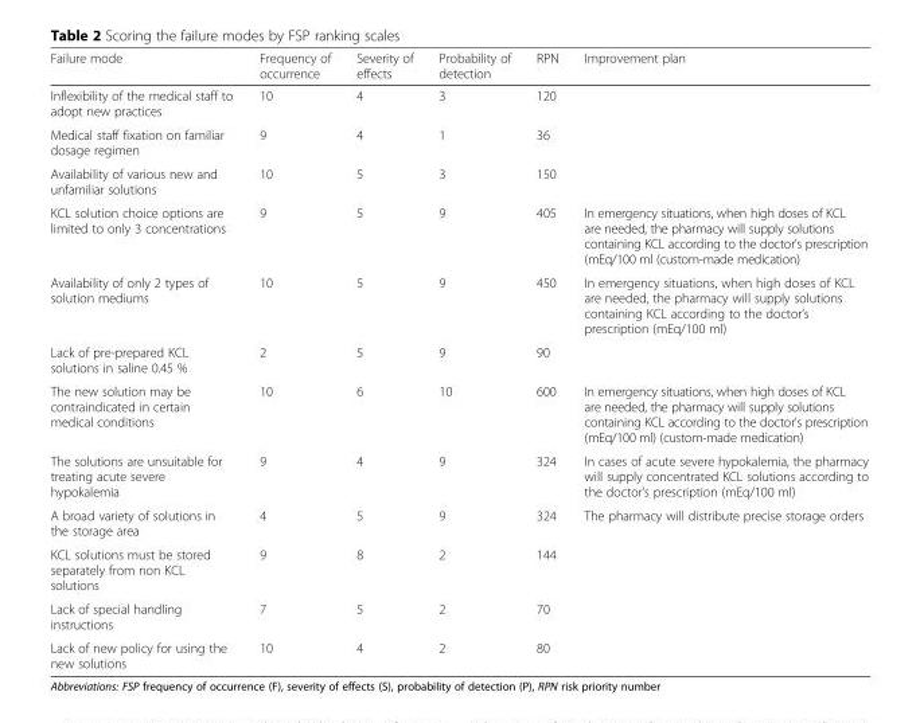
<table><thead><tr><td>Failure mode</td><td>Frequency of occurrence</td><td>Severity of effects</td><td>Probability of detection</td><td>RPN</td><td>Improvement plan</td></tr></thead><tbody><tr><td>Inflexibility of the medical staff to adopt new practices</td><td>10</td><td>4</td><td>3</td><td>120</td><td></td></tr><tr><td>Medical staff fixation on familiar dosage regimen</td><td>9</td><td>4</td><td>1</td><td>36</td><td></td></tr><tr><td>Availability of various new and unfamiliar solutions</td><td>10</td><td>5</td><td>3</td><td>150</td><td></td></tr><tr><td>KCL solution choice options are limited to only 3 concentrations</td><td>9</td><td>5</td><td>9</td><td>405</td><td>In emergency situations, when high doses of KCL are needed, the pharmacy will supply solutions containing KCL according to the doctor’s prescription (mEq/100 ml (custom-made medication)</td></tr><tr><td>Availability of only 2 types of solution mediums</td><td>10</td><td>5</td><td>9</td><td>450</td><td>In emergency situations, when high doses of KCL are needed, the pharmacy will supply solutions containing KCL according to the doctor’s prescription (mEq/100 ml)</td></tr><tr><td>Lack of pre-prepared KCL solutions in saline 0.45 %</td><td>2</td><td>5</td><td>9</td><td>90</td><td></td></tr><tr><td>The new solution may be contraindicated in certain medical conditions</td><td>10</td><td>6</td><td>10</td><td>600</td><td>In emergency situations, when high doses of KCL are needed, the pharmacy will supply solutions containing KCL according to the doctor’s prescription (mEq/100 ml) (custom-made medication)</td></tr><tr><td>The solutions are unsuitable for treating acute severe hypokalemia</td><td>9</td><td>4</td><td>9</td><td>324</td><td>In cases of acute severe hypokalemia, the pharmacy will supply concentrated KCL solutions according to the doctor’s prescription (mEq/100 ml)</td></tr><tr><td>A broad variety of solutions in the storage area</td><td>4</td><td>5</td><td>9</td><td>324</td><td>The pharmacy will distribute precise storage orders</td></tr><tr><td>KCL solutions must be stored separately from non KCL solutions</td><td>9</td><td>8</td><td>2</td><td>144</td><td></td></tr><tr><td>Lack of special handling instructions</td><td>7</td><td>5</td><td>2</td><td>70</td><td></td></tr><tr><td>Lack of new policy for using the new solutions</td><td>10</td><td>4</td><td>2</td><td>80</td><td></td></tr></tbody></table>